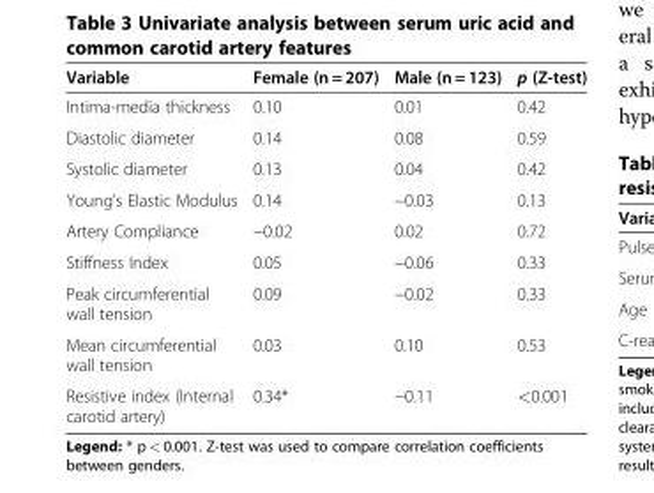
<table><thead><tr><td>Variable</td><td>Female (n = 207)</td><td>Male (n = 123)</td><td>p (Z-test)</td></tr></thead><tbody><tr><td>Intima-media thickness</td><td>0.10</td><td>0.01</td><td>0.42</td></tr><tr><td>Diastolic diameter</td><td>0.14</td><td>0.08</td><td>0.59</td></tr><tr><td>Systolic diameter</td><td>0.13</td><td>0.04</td><td>0.42</td></tr><tr><td>Young’s Elastic Modulus</td><td>0.14</td><td>−0.03</td><td>0.13</td></tr><tr><td>Artery Compliance</td><td>−0.02</td><td>0.02</td><td>0.72</td></tr><tr><td>Stiffness Index</td><td>0.05</td><td>−0.06</td><td>0.33</td></tr><tr><td>Peak circumferential wall tension</td><td>0.09</td><td>−0.02</td><td>0.33</td></tr><tr><td>Mean circumferential wall tension</td><td>0.03</td><td>0.10</td><td>0.53</td></tr><tr><td>Resistive index (Internal carotid artery)</td><td>0.34*</td><td>−0.11</td><td>&lt;0.001</td></tr></tbody></table>